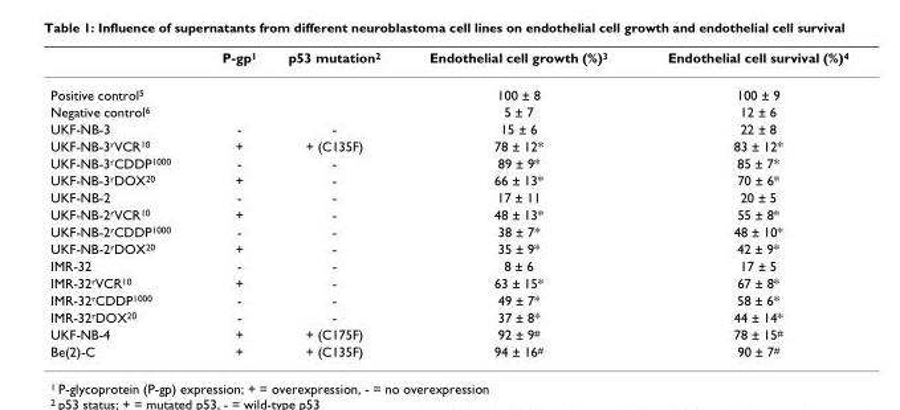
<table><thead><tr><td></td><td>P-gp<sup>1</sup></td><td>p53 mutation<sup>2</sup></td><td>Endothelial cell growth (%)<sup>3</sup></td><td>Endothelial cell survival (%)<sup>4</sup></td></tr></thead><tbody><tr><td>Positive control<sup>5</sup></td><td></td><td></td><td>100 ± 8</td><td>100 ± 9</td></tr><tr><td>Negative control<sup>6</sup></td><td></td><td></td><td>5 ± 7</td><td>12 ± 6</td></tr><tr><td>UKF-NB-3</td><td>-</td><td>-</td><td>15 ± 6</td><td>22 ± 8</td></tr><tr><td>UKF-NB-3<sup>r</sup>VCR<sup>10</sup></td><td>+</td><td>+ (C135F)</td><td>78 ± 12*</td><td>83 ± 12*</td></tr><tr><td>UKF-NB-3<sup>r</sup>CDDP<sup>1000</sup></td><td>-</td><td>-</td><td>89 ± 9*</td><td>85 ± 7*</td></tr><tr><td>UKF-NB-3<sup>r</sup>DOX<sup>20</sup></td><td>+</td><td>-</td><td>66 ± 13*</td><td>70 ± 6*</td></tr><tr><td>UKF-NB-2</td><td>-</td><td>-</td><td>17 ± 11</td><td>20 ± 5</td></tr><tr><td>UKF-NB-2<sup>r</sup>VCR<sup>10</sup></td><td>+</td><td>-</td><td>48 ± 13*</td><td>55 ± 8*</td></tr><tr><td>UKF-NB-2<sup>r</sup>CDDP<sup>1000</sup></td><td>-</td><td>-</td><td>38 ± 7*</td><td>48 ± 10*</td></tr><tr><td>UKF-NB-2<sup>r</sup>DOX<sup>20</sup></td><td>+</td><td>-</td><td>35 ± 9*</td><td>42 ± 9*</td></tr><tr><td>IMR-32</td><td>-</td><td>-</td><td>8 ± 6</td><td>17 ± 5</td></tr><tr><td>IMR-32<sup>r</sup>VCR<sup>10</sup></td><td>+</td><td>-</td><td>63 ± 15*</td><td>67 ± 8*</td></tr><tr><td>IMR-32<sup>r</sup>CDDP<sup>1000</sup></td><td>-</td><td>-</td><td>49 ± 7*</td><td>58 ± 6*</td></tr><tr><td>IMR-32<sup>r</sup>DOX<sup>20</sup></td><td>-</td><td>-</td><td>37 ± 8*</td><td>44 ± 14*</td></tr><tr><td>UKF-NB-4</td><td>+</td><td>+ (C175F)</td><td>92 ± 9<sup>#</sup></td><td>78 ± 15<sup>#</sup></td></tr><tr><td>Be(2)-C</td><td>+</td><td>+ (C135F)</td><td>94 ± 16<sup>#</sup></td><td>90 ± 7<sup>#</sup></td></tr></tbody></table>